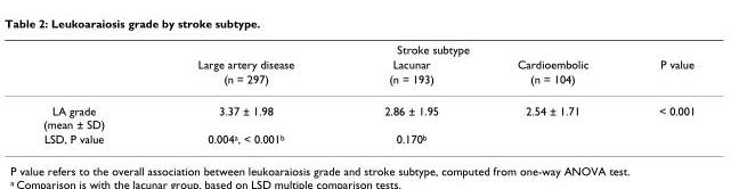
<table><thead><tr><td rowspan="3"></td><td colspan="4">Stroke subtype</td></tr><tr><td rowspan="2">Large artery disease (n = 297)</td><td rowspan="2">Lacunar (n = 193)</td><td rowspan="2">Cardioembolic (n = 104)</td><td rowspan="2">P value</td></tr><tr></tr></thead><tbody><tr><td>LA grade (mean ± SD)</td><td>3.37 ± 1.98</td><td>2.86 ± 1.95</td><td>2.54 ± 1.71</td><td>&lt; 0.001</td></tr><tr><td>LSD, P value</td><td>0.004<sup>a</sup>, &lt; 0.001<sup>b</sup></td><td>0.170<sup>b</sup></td><td></td><td></td></tr></tbody></table>